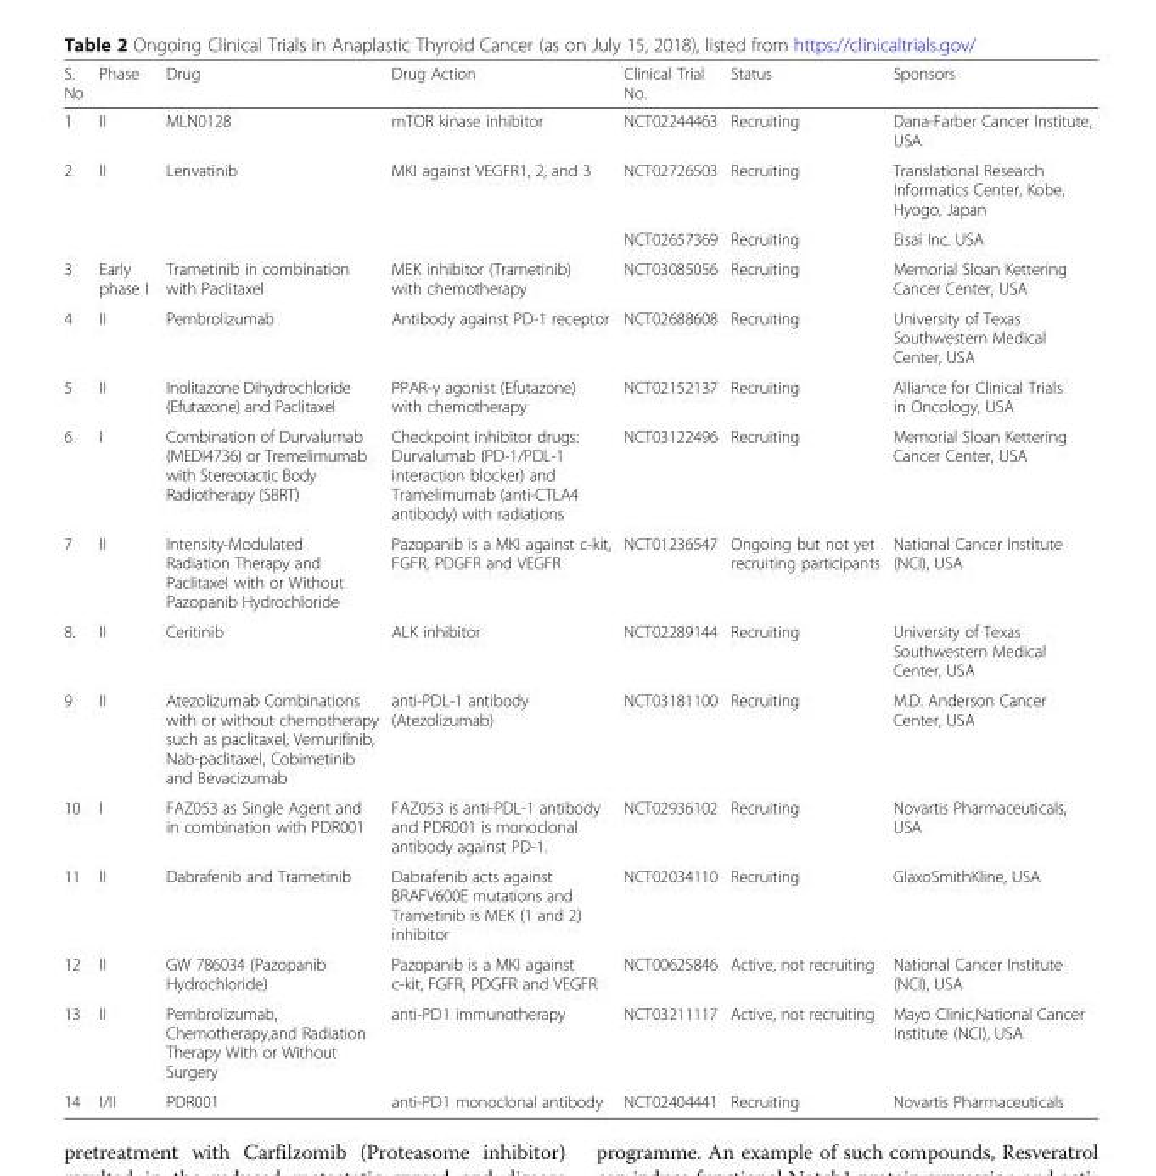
<table><thead><tr><td>S. No</td><td>Phase</td><td>Drug</td><td>Drug Action</td><td>Clinical Trial No.</td><td>Status</td><td>Sponsors</td></tr></thead><tbody><tr><td>1</td><td>II</td><td>MLN0128</td><td>mTOR kinase inhibitor</td><td>NCT02244463</td><td>Recruiting</td><td>Dana-Farber Cancer Institute, USA</td></tr><tr><td rowspan="2">2</td><td rowspan="2">II</td><td rowspan="2">Lenvatinib</td><td rowspan="2">MKI against VEGFR1, 2, and 3</td><td>NCT02726503</td><td>Recruiting</td><td>Translational Research Informatics Center, Kobe, Hyogo, Japan</td></tr><tr><td>NCT02657369</td><td>Recruiting</td><td>Eisai Inc. USA</td></tr><tr><td>3</td><td>Early phase I</td><td>Trametinib in combination with Paclitaxel</td><td>MEK inhibitor (Trametinib) with chemotherapy</td><td>NCT03085056</td><td>Recruiting</td><td>Memorial Sloan Kettering Cancer Center, USA</td></tr><tr><td>4</td><td>II</td><td>Pembrolizumab</td><td>Antibody against PD-1 receptor</td><td>NCT02688608</td><td>Recruiting</td><td>University of Texas Southwestern Medical Center, USA</td></tr><tr><td>5</td><td>II</td><td>Inolitazone Dihydrochloride (Efutazone) and Paclitaxel</td><td>PPAR-γ agonist (Efutazone) with chemotherapy</td><td>NCT02152137</td><td>Recruiting</td><td>Alliance for Clinical Trials in Oncology, USA</td></tr><tr><td>6</td><td>I</td><td>Combination of Durvalumab (MEDI4736) or Tremelimumab with Stereotactic Body Radiotherapy (SBRT)</td><td>Checkpoint inhibitor drugs: Durvalumab (PD-1/PDL-1 interaction blocker) and Tramelimumab (anti-CTLA4 antibody) with radiations</td><td>NCT03122496</td><td>Recruiting</td><td>Memorial Sloan Kettering Cancer Center, USA</td></tr><tr><td>7</td><td>II</td><td>Intensity-Modulated Radiation Therapy and Paclitaxel with or Without Pazopanib Hydrochloride</td><td>Pazopanib is a MKI against c-kit, FGFR, PDGFR and VEGFR</td><td>NCT01236547</td><td>Ongoing but not yet recruiting participants</td><td>National Cancer Institute (NCI), USA</td></tr><tr><td>8.</td><td>II</td><td>Ceritinib</td><td>ALK inhibitor</td><td>NCT02289144</td><td>Recruiting</td><td>University of Texas Southwestern Medical Center, USA</td></tr><tr><td>9</td><td>II</td><td>Atezolizumab Combinations with or without chemotherapy such as paclitaxel, Vemurifinib, Nab-paclitaxel, Cobimetinib and Bevacizumab</td><td>anti-PDL-1 antibody (Atezolizumab)</td><td>NCT03181100</td><td>Recruiting</td><td>M.D. Anderson Cancer Center, USA</td></tr><tr><td>10</td><td>I</td><td>FAZ053 as Single Agent and in combination with PDR001</td><td>FAZ053 is anti-PDL-1 antibody and PDR001 is monoclonal antibody against PD-1.</td><td>NCT02936102</td><td>Recruiting</td><td>Novartis Pharmaceuticals, USA</td></tr><tr><td>11</td><td>II</td><td>Dabrafenib and Trametinib</td><td>Dabrafenib acts against BRAFV600E mutations and Trametinib is MEK (1 and 2) inhibitor</td><td>NCT02034110</td><td>Recruiting</td><td>GlaxoSmithKline, USA</td></tr><tr><td>12</td><td>II</td><td>GW 786034 (Pazopanib Hydrochloride)</td><td>Pazopanib is a MKI against c-kit, FGFR, PDGFR and VEGFR</td><td>NCT00625846</td><td>Active, not recruiting</td><td>National Cancer Institute (NCI), USA</td></tr><tr><td>13</td><td>II</td><td>Pembrolizumab, Chemotherapy,and Radiation Therapy With or Without Surgery</td><td>anti-PD1 immunotherapy</td><td>NCT03211117</td><td>Active, not recruiting</td><td>Mayo Clinic,National Cancer Institute (NCI), USA</td></tr><tr><td>14</td><td>I/II</td><td>PDR001</td><td>anti-PD1 monoclonal antibody</td><td>NCT02404441</td><td>Recruiting</td><td>Novartis Pharmaceuticals</td></tr></tbody></table>